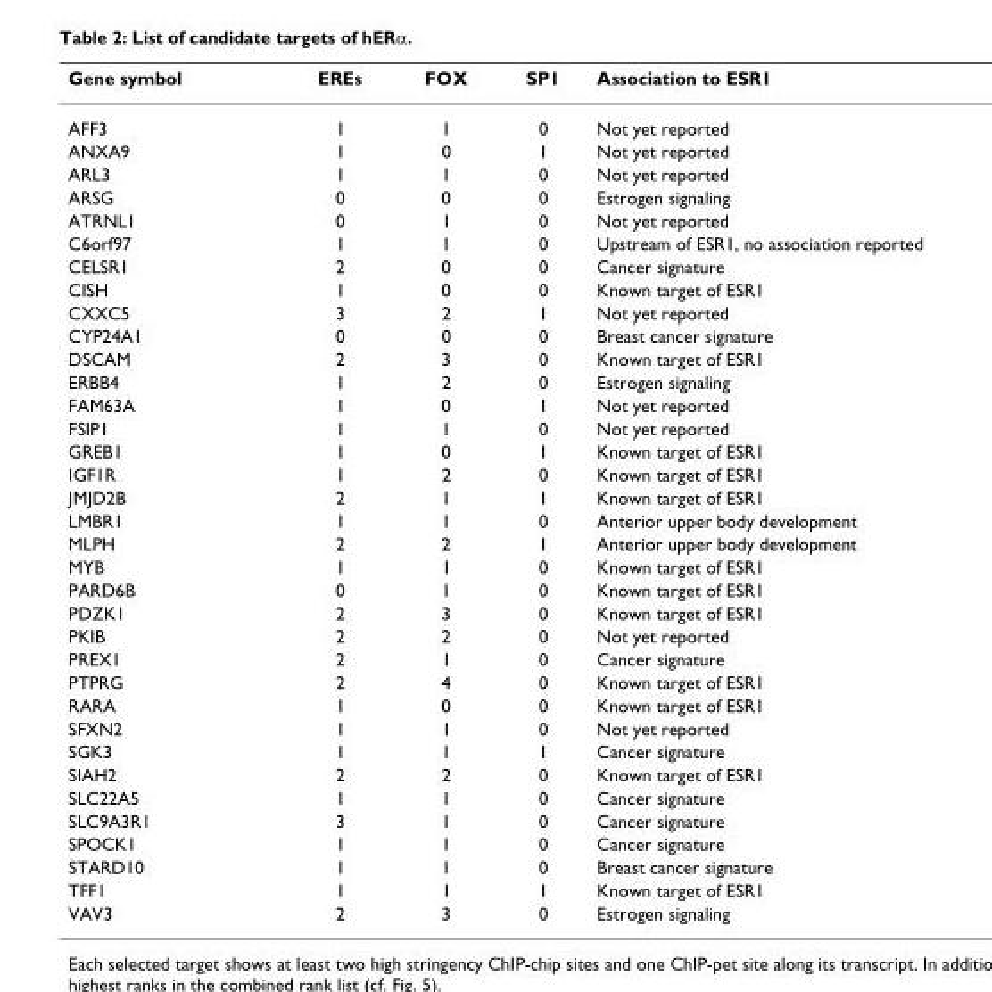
<table><thead><tr><td>Gene symbol</td><td>EREs</td><td>FOX</td><td>SP1</td><td>Association to ESR1</td></tr></thead><tbody><tr><td>AFF3</td><td>1</td><td>1</td><td>0</td><td>Not yet reported</td></tr><tr><td>ANXA9</td><td>1</td><td>0</td><td>1</td><td>Not yet reported</td></tr><tr><td>ARL3</td><td>1</td><td>1</td><td>0</td><td>Not yet reported</td></tr><tr><td>ARSG</td><td>0</td><td>0</td><td>0</td><td>Estrogen signaling</td></tr><tr><td>ATRNL1</td><td>0</td><td>1</td><td>0</td><td>Not yet reported</td></tr><tr><td>C6orf97</td><td>1</td><td>1</td><td>0</td><td>Upstream of ESR1, no association reported</td></tr><tr><td>CELSR1</td><td>2</td><td>0</td><td>0</td><td>Cancer signature</td></tr><tr><td>CISH</td><td>1</td><td>0</td><td>0</td><td>Known target of ESR1</td></tr><tr><td>CXXC5</td><td>3</td><td>2</td><td>1</td><td>Not yet reported</td></tr><tr><td>CYP24A1</td><td>0</td><td>0</td><td>0</td><td>Breast cancer signature</td></tr><tr><td>DSCAM</td><td>2</td><td>3</td><td>0</td><td>Known target of ESR1</td></tr><tr><td>ERBB4</td><td>1</td><td>2</td><td>0</td><td>Estrogen signaling</td></tr><tr><td>FAM63A</td><td>1</td><td>0</td><td>1</td><td>Not yet reported</td></tr><tr><td>FSIP1</td><td>1</td><td>1</td><td>0</td><td>Not yet reported</td></tr><tr><td>GREB1</td><td>1</td><td>0</td><td>1</td><td>Known target of ESR1</td></tr><tr><td>IGF1R</td><td>1</td><td>2</td><td>0</td><td>Known target of ESR1</td></tr><tr><td>JMJD2B</td><td>2</td><td>1</td><td>1</td><td>Known target of ESR1</td></tr><tr><td>LMBR1</td><td>1</td><td>1</td><td>0</td><td>Anterior upper body development</td></tr><tr><td>MLPH</td><td>2</td><td>2</td><td>1</td><td>Anterior upper body development</td></tr><tr><td>MYB</td><td>1</td><td>1</td><td>0</td><td>Known target of ESR1</td></tr><tr><td>PARD6B</td><td>0</td><td>1</td><td>0</td><td>Known target of ESR1</td></tr><tr><td>PDZK1</td><td>2</td><td>3</td><td>0</td><td>Known target of ESR1</td></tr><tr><td>PKIB</td><td>2</td><td>2</td><td>0</td><td>Not yet reported</td></tr><tr><td>PREX1</td><td>2</td><td>1</td><td>0</td><td>Cancer signature</td></tr><tr><td>PTPRG</td><td>2</td><td>4</td><td>0</td><td>Known target of ESR1</td></tr><tr><td>RARA</td><td>1</td><td>0</td><td>0</td><td>Known target of ESR1</td></tr><tr><td>SFXN2</td><td>1</td><td>1</td><td>0</td><td>Not yet reported</td></tr><tr><td>SGK3</td><td>1</td><td>1</td><td>1</td><td>Cancer signature</td></tr><tr><td>SIAH2</td><td>2</td><td>2</td><td>0</td><td>Known target of ESR1</td></tr><tr><td>SLC22A5</td><td>1</td><td>1</td><td>0</td><td>Cancer signature</td></tr><tr><td>SLC9A3R1</td><td>3</td><td>1</td><td>0</td><td>Cancer signature</td></tr><tr><td>SPOCK1</td><td>1</td><td>1</td><td>0</td><td>Cancer signature</td></tr><tr><td>STARD10</td><td>1</td><td>1</td><td>0</td><td>Breast cancer signature</td></tr><tr><td>TFF1</td><td>1</td><td>1</td><td>1</td><td>Known target of ESR1</td></tr><tr><td>VAV3</td><td>2</td><td>3</td><td>0</td><td>Estrogen signaling</td></tr></tbody></table>